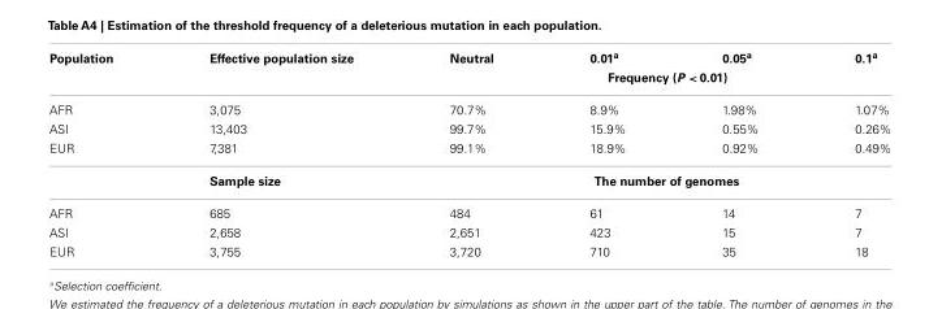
<table><thead><tr><td rowspan="2">Population</td><td rowspan="2">Effective population size</td><td rowspan="2">Neutral</td><td>0.01<sup>a</sup></td><td>0.05<sup>a</sup></td><td rowspan="2">0.1<sup>a</sup></td></tr><tr><td colspan="2">Frequency (P &lt; 0.01)</td></tr></thead><tbody><tr><td>AFR</td><td>3,075</td><td>70.7%</td><td>8.9%</td><td>1.98%</td><td>1.07%</td></tr><tr><td>ASI</td><td>13,403</td><td>99.7%</td><td>15.9%</td><td>0.55%</td><td>0.26%</td></tr><tr><td rowspan="2">EUR</td><td>7,381</td><td>99.1%</td><td>18.9%</td><td>0.92%</td><td>0.49%</td></tr><tr><td>Sample size</td><td></td><td colspan="2">The number of genomes</td><td></td></tr><tr><td>AFR</td><td>685</td><td>484</td><td>61</td><td>14</td><td>7</td></tr><tr><td>ASI</td><td>2,658</td><td>2,651</td><td>423</td><td>15</td><td>7</td></tr><tr><td>EUR</td><td>3,755</td><td>3,720</td><td>710</td><td>35</td><td>18</td></tr></tbody></table>